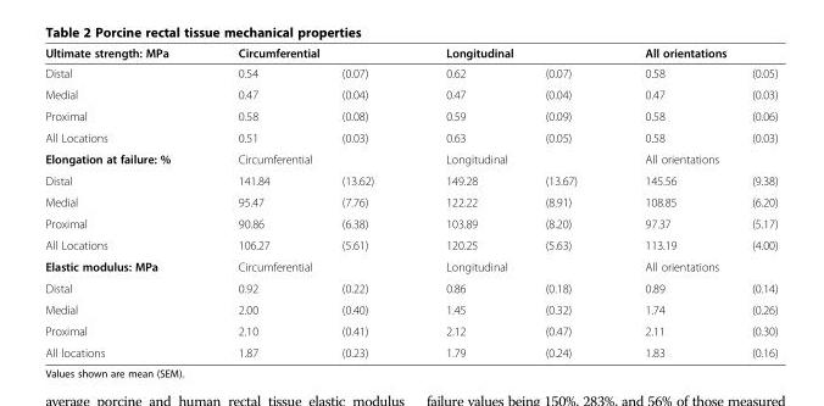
<table><thead><tr><td rowspan="2">Ultimate strength: MPa Distal</td><td colspan="2">Circumferential</td><td colspan="2">Longitudinal</td><td colspan="2">All orientations</td></tr><tr><td>0.54</td><td>(0.07)</td><td>0.62</td><td>(0.07)</td><td>0.58</td><td>(0.05)</td></tr></thead><tbody><tr><td>Medial</td><td>0.47</td><td>(0.04)</td><td>0.47</td><td>(0.04)</td><td>0.47</td><td>(0.03)</td></tr><tr><td>Proximal</td><td>0.58</td><td>(0.08)</td><td>0.59</td><td>(0.09)</td><td>0.58</td><td>(0.06)</td></tr><tr><td>All Locations</td><td>0.51</td><td>(0.03)</td><td>0.63</td><td>(0.05)</td><td>0.58</td><td>(0.03)</td></tr><tr><td>Elongation at failure: %</td><td colspan="2">Circumferential</td><td colspan="2">Longitudinal</td><td colspan="2">All orientations</td></tr><tr><td>Distal</td><td>141.84</td><td>(13.62)</td><td>149.28</td><td>(13.67)</td><td>145.56</td><td>(9.38)</td></tr><tr><td>Medial</td><td>95.47</td><td>(7.76)</td><td>122.22</td><td>(8.91)</td><td>108.85</td><td>(6.20)</td></tr><tr><td>Proximal</td><td>90.86</td><td>(6.38)</td><td>103.89</td><td>(8.20)</td><td>97.37</td><td>(5.17)</td></tr><tr><td>All Locations</td><td>106.27</td><td>(5.61)</td><td>120.25</td><td>(5.63)</td><td>113.19</td><td>(4.00)</td></tr><tr><td>Elastic modulus: MPa</td><td colspan="2">Circumferential</td><td colspan="2">Longitudinal</td><td colspan="2">All orientations</td></tr><tr><td>Distal</td><td>0.92</td><td>(0.22)</td><td>0.86</td><td>(0.18)</td><td>0.89</td><td>(0.14)</td></tr><tr><td>Medial</td><td>2.00</td><td>(0.40)</td><td>1.45</td><td>(0.32)</td><td>1.74</td><td>(0.26)</td></tr><tr><td>Proximal</td><td>2.10</td><td>(0.41)</td><td>2.12</td><td>(0.47)</td><td>2.11</td><td>(0.30)</td></tr><tr><td>All locations</td><td>1.87</td><td>(0.23)</td><td>1.79</td><td>(0.24)</td><td>1.83</td><td>(0.16)</td></tr></tbody></table>